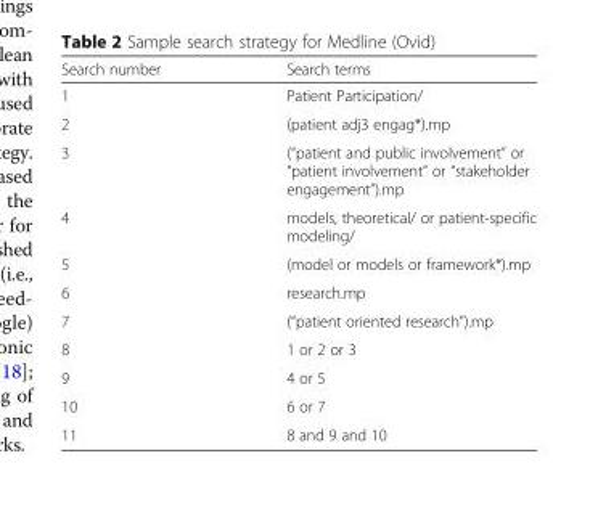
<table><thead><tr><td>Search number</td><td>Search terms</td></tr></thead><tbody><tr><td>1</td><td>Patient Participation/</td></tr><tr><td>2</td><td>(patient adj3 engag*).mp</td></tr><tr><td>3</td><td>(“patient and public involvement” or “patient involvement” or “stakeholder engagement”).mp</td></tr><tr><td>4</td><td>models, theoretical/ or patient-specific modeling/</td></tr><tr><td>5</td><td>(model or models or framework*).mp</td></tr><tr><td>6</td><td>research.mp</td></tr><tr><td>7</td><td>(“patient oriented research”).mp</td></tr><tr><td>8</td><td>1 or 2 or 3</td></tr><tr><td>9</td><td>4 or 5</td></tr><tr><td>10</td><td>6 or 7</td></tr><tr><td>11</td><td>8 and 9 and 10</td></tr></tbody></table>